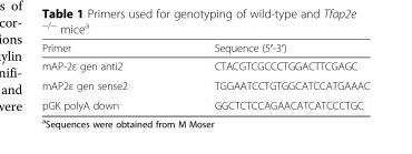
<table><thead><tr><td>Primer</td><td>Sequence (5′-3′)</td></tr></thead><tbody><tr><td>mAP-2ε gen anti2</td><td>CTACGTCGCCCTGGACTTCGAGC</td></tr><tr><td>mAP2ε gen sense2</td><td>TGGAATCCTGTGGCATCCATGAAAC</td></tr><tr><td>pGK polyA down</td><td>GGCTCTCCAGAACATCATCCCTGC</td></tr></tbody></table>